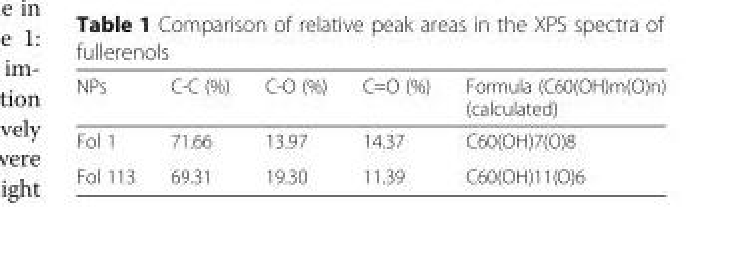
<table><thead><tr><td>NPs</td><td>C-C (%)</td><td>C-O (%)</td><td>C=O (%)</td><td>Formula (C60(OH)m(O)n) (calculated)</td></tr></thead><tbody><tr><td>Fol 1</td><td>71.66</td><td>13.97</td><td>14.37</td><td>C60(OH)7(O)8</td></tr><tr><td>Fol 113</td><td>69.31</td><td>19.30</td><td>11.39</td><td>C60(OH)11(O)6</td></tr></tbody></table>